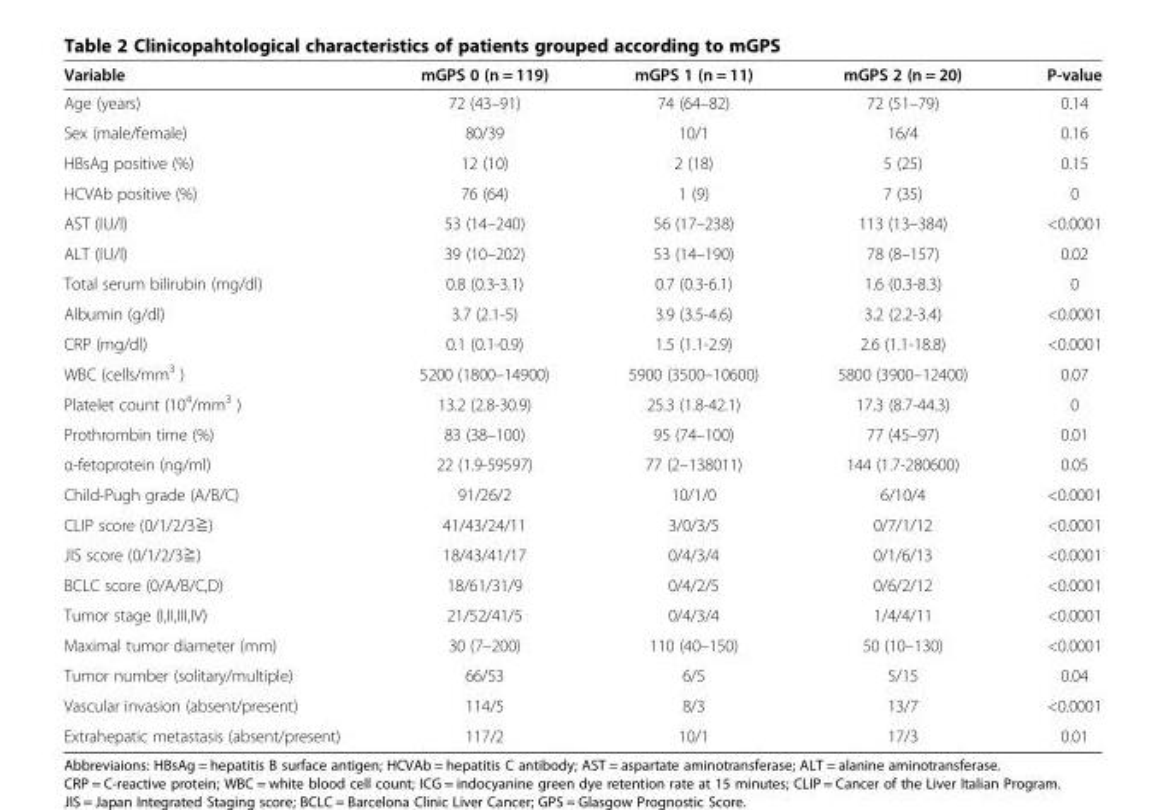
<table><thead><tr><td>Variable</td><td>mGPS 0 (n = 119)</td><td>mGPS 1 (n = 11)</td><td>mGPS 2 (n = 20)</td><td>P-value</td></tr></thead><tbody><tr><td>Age (years)</td><td>72 (43–91)</td><td>74 (64–82)</td><td>72 (51–79)</td><td>0.14</td></tr><tr><td>Sex (male/female)</td><td>80/39</td><td>10/1</td><td>16/4</td><td>0.16</td></tr><tr><td>HBsAg positive (%)</td><td>12 (10)</td><td>2 (18)</td><td>5 (25)</td><td>0.15</td></tr><tr><td>HCVAb positive (%)</td><td>76 (64)</td><td>1 (9)</td><td>7 (35)</td><td>0</td></tr><tr><td>AST (IU/l)</td><td>53 (14–240)</td><td>56 (17–238)</td><td>113 (13–384)</td><td>&lt;0.0001</td></tr><tr><td>ALT (IU/l)</td><td>39 (10–202)</td><td>53 (14–190)</td><td>78 (8–157)</td><td>0.02</td></tr><tr><td>Total serum bilirubin (mg/dl)</td><td>0.8 (0.3-3.1)</td><td>0.7 (0.3-6.1)</td><td>1.6 (0.3-8.3)</td><td>0</td></tr><tr><td>Albumin (g/dl)</td><td>3.7 (2.1-5)</td><td>3.9 (3.5-4.6)</td><td>3.2 (2.2-3.4)</td><td>&lt;0.0001</td></tr><tr><td>CRP (mg/dl)</td><td>0.1 (0.1-0.9)</td><td>1.5 (1.1-2.9)</td><td>2.6 (1.1-18.8)</td><td>&lt;0.0001</td></tr><tr><td>WBC (cells/mm<sup>3</sup> )</td><td>5200 (1800–14900)</td><td>5900 (3500–10600)</td><td>5800 (3900–12400)</td><td>0.07</td></tr><tr><td>Platelet count (10<sup>4</sup>/mm<sup>3</sup> )</td><td>13.2 (2.8-30.9)</td><td>25.3 (1.8-42.1)</td><td>17.3 (8.7-44.3)</td><td>0</td></tr><tr><td>Prothrombin time (%)</td><td>83 (38–100)</td><td>95 (74–100)</td><td>77 (45–97)</td><td>0.01</td></tr><tr><td>α-fetoprotein (ng/ml)</td><td>22 (1.9-59597)</td><td>77 (2–138011)</td><td>144 (1.7-280600)</td><td>0.05</td></tr><tr><td>Child-Pugh grade (A/B/C)</td><td>91/26/2</td><td>10/1/0</td><td>6/10/4</td><td>&lt;0.0001</td></tr><tr><td>CLIP score (0/1/2/3≧)</td><td>41/43/24/11</td><td>3/0/3/5</td><td>0/7/1/12</td><td>&lt;0.0001</td></tr><tr><td>JIS score (0/1/2/3≧)</td><td>18/43/41/17</td><td>0/4/3/4</td><td>0/1/6/13</td><td>&lt;0.0001</td></tr><tr><td>BCLC score (0/A/B/C,D)</td><td>18/61/31/9</td><td>0/4/2/5</td><td>0/6/2/12</td><td>&lt;0.0001</td></tr><tr><td>Tumor stage (І,ІІ,ІІІ,ІV)</td><td>21/52/41/5</td><td>0/4/3/4</td><td>1/4/4/11</td><td>&lt;0.0001</td></tr><tr><td>Maximal tumor diameter (mm)</td><td>30 (7–200)</td><td>110 (40–150)</td><td>50 (10–130)</td><td>&lt;0.0001</td></tr><tr><td>Tumor number (solitary/multiple)</td><td>66/53</td><td>6/5</td><td>5/15</td><td>0.04</td></tr><tr><td>Vascular invasion (absent/present)</td><td>114/5</td><td>8/3</td><td>13/7</td><td>&lt;0.0001</td></tr><tr><td>Extrahepatic metastasis (absent/present)</td><td>117/2</td><td>10/1</td><td>17/3</td><td>0.01</td></tr></tbody></table>